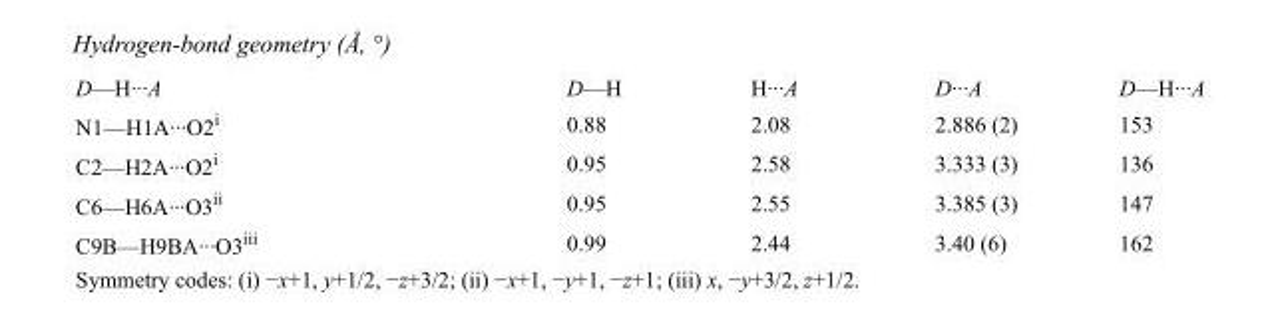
<table><tbody><tr><td>D—H···A</td><td>D—H</td><td>H···A</td><td>D···A</td><td>D—H···A</td></tr><tr><td>N1—H1A···O2<sup>i</sup></td><td>0.88</td><td>2.08</td><td>2.886 (2)</td><td>153</td></tr><tr><td>C2—H2A···O2<sup>i</sup></td><td>0.95</td><td>2.58</td><td>3.333 (3)</td><td>136</td></tr><tr><td>C6—H6A···O3<sup>ii</sup></td><td>0.95</td><td>2.55</td><td>3.385 (3)</td><td>147</td></tr><tr><td>C9B—H9BA···O3<sup>iii</sup></td><td>0.99</td><td>2.44</td><td>3.40 (6)</td><td>162</td></tr></tbody></table>